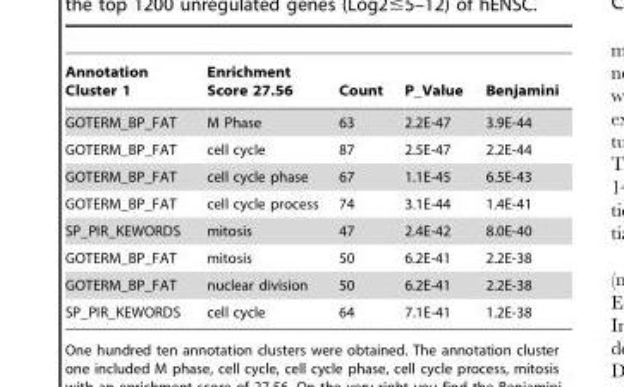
<table><thead><tr><td>Annotation Cluster 1</td><td>Enrichment Score 27.56</td><td>Count</td><td>P_Value</td><td>Benjamini</td></tr></thead><tbody><tr><td>GOTERM_BP_FAT</td><td>M Phase</td><td>63</td><td>2.2E-47</td><td>3.9E-44</td></tr><tr><td>GOTERM_BP_FAT</td><td>cell cycle</td><td>87</td><td>2.5E-47</td><td>2.2E-44</td></tr><tr><td>GOTERM_BP_FAT</td><td>cell cycle phase</td><td>67</td><td>1.1E-45</td><td>6.5E-43</td></tr><tr><td>GOTERM_BP_FAT</td><td>cell cycle process</td><td>74</td><td>3.1E-44</td><td>1.4E-41</td></tr><tr><td>SP_PIR_KEWORDS</td><td>mitosis</td><td>47</td><td>2.4E-42</td><td>8.0E-40</td></tr><tr><td>GOTERM_BP_FAT</td><td>mitosis</td><td>50</td><td>6.2E-41</td><td>2.2E-38</td></tr><tr><td>GOTERM_BP_FAT</td><td>nuclear division</td><td>50</td><td>6.2E-41</td><td>2.2E-38</td></tr><tr><td>SP_PIR_KEWORDS</td><td>cell cycle</td><td>64</td><td>7.1E-41</td><td>1.2E-38</td></tr></tbody></table>